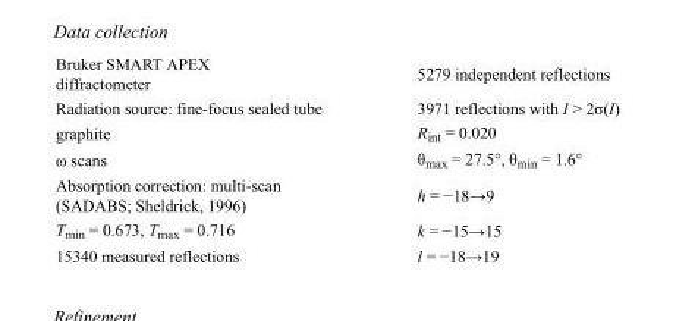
<table><tbody><tr><td>Bruker SMART APEX diffractometer</td><td>5279 independent reflections</td></tr><tr><td>Radiation source: fine-focus sealed tube</td><td>3971 reflections with I &gt; 2σ(I)</td></tr><tr><td>graphite</td><td>R<sub>int</sub> = 0.020</td></tr><tr><td>ω scans</td><td>θ<sub>max</sub> = 27.5°, θ<sub>min</sub> = 1.6°</td></tr><tr><td>Absorption correction: multi-scan (SADABS; Sheldrick, 1996)</td><td>h = −18→9</td></tr><tr><td>T<sub>min</sub> = 0.673, T<sub>max</sub> = 0.716</td><td>k = −15→15</td></tr><tr><td>15340 measured reflections</td><td>l = −18→19</td></tr></tbody></table>